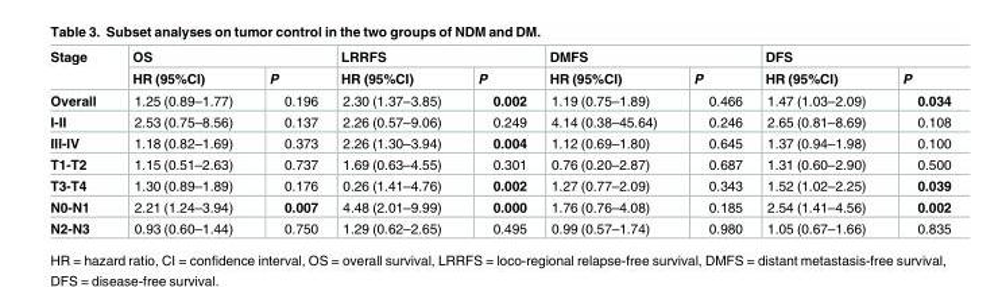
<table><thead><tr><td rowspan="2">Stage</td><td colspan="2">OS</td><td colspan="2">LRRFS</td><td colspan="2">DMFS</td><td colspan="2">DFS</td></tr><tr><td>HR (95%CI)</td><td>P</td><td>HR (95%CI)</td><td>P</td><td>HR (95%CI)</td><td>P</td><td>HR (95%CI)</td><td>P</td></tr></thead><tbody><tr><td>Overall</td><td>1.25 (0.89–1.77)</td><td>0.196</td><td>2.30 (1.37–3.85)</td><td>0.002</td><td>1.19 (0.75–1.89)</td><td>0.466</td><td>1.47 (1.03–2.09)</td><td>0.034</td></tr><tr><td>I-II</td><td>2.53 (0.75–8.56)</td><td>0.137</td><td>2.26 (0.57–9.06)</td><td>0.249</td><td>4.14 (0.38–45.64)</td><td>0.246</td><td>2.65 (0.81–8.69)</td><td>0.108</td></tr><tr><td>III-IV</td><td>1.18 (0.82–1.69)</td><td>0.373</td><td>2.26 (1.30–3.94)</td><td>0.004</td><td>1.12 (0.69–1.80)</td><td>0.645</td><td>1.37 (0.94–1.98)</td><td>0.100</td></tr><tr><td>T1-T2</td><td>1.15 (0.51–2.63)</td><td>0.737</td><td>1.69 (0.63–4.55)</td><td>0.301</td><td>0.76 (0.20–2.87)</td><td>0.687</td><td>1.31 (0.60–2.90)</td><td>0.500</td></tr><tr><td>T3-T4</td><td>1.30 (0.89–1.89)</td><td>0.176</td><td>0.26 (1.41–4.76)</td><td>0.002</td><td>1.27 (0.77–2.09)</td><td>0.343</td><td>1.52 (1.02–2.25)</td><td>0.039</td></tr><tr><td>N0-N1</td><td>2.21 (1.24–3.94)</td><td>0.007</td><td>4.48 (2.01–9.99)</td><td>0.000</td><td>1.76 (0.76–4.08)</td><td>0.185</td><td>2.54 (1.41–4.56)</td><td>0.002</td></tr><tr><td>N2-N3</td><td>0.93 (0.60–1.44)</td><td>0.750</td><td>1.29 (0.62–2.65)</td><td>0.495</td><td>0.99 (0.57–1.74)</td><td>0.980</td><td>1.05 (0.67–1.66)</td><td>0.835</td></tr></tbody></table>